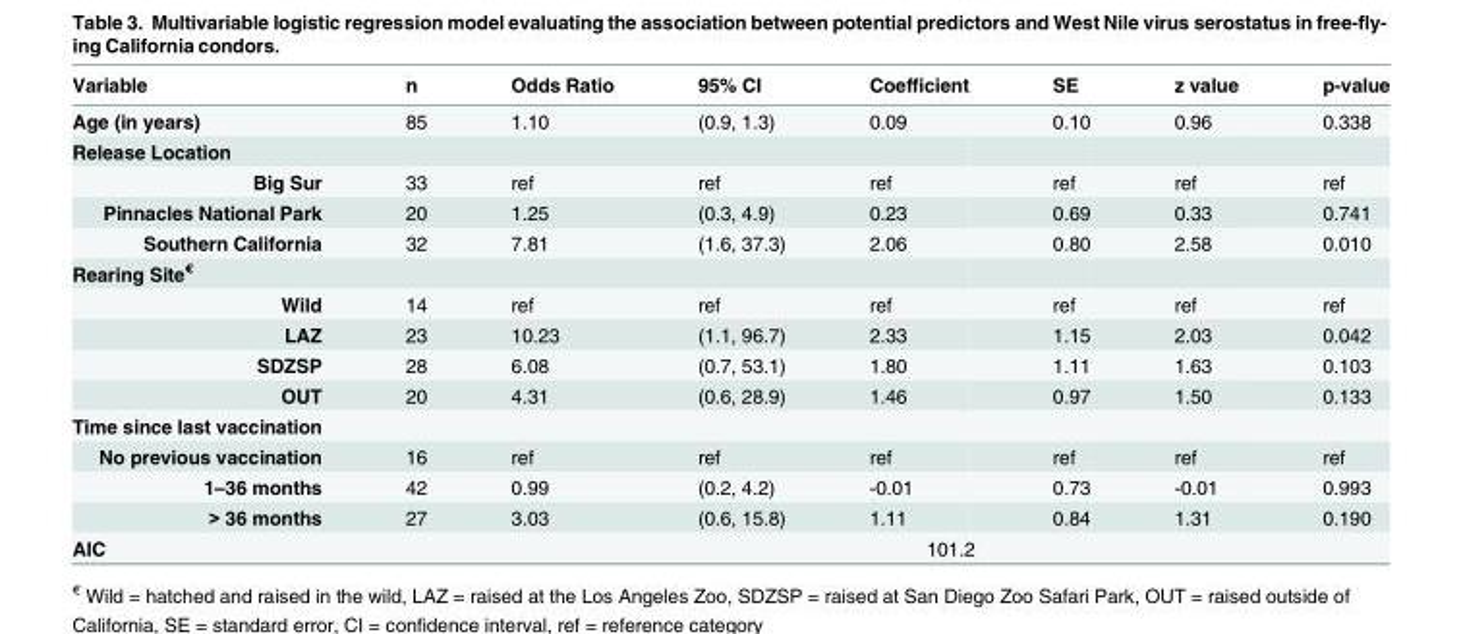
<table><thead><tr><td>Variable</td><td>n</td><td>Odds Ratio</td><td>95% CI</td><td>Coefficient</td><td>SE</td><td>z value</td><td>p-value</td></tr></thead><tbody><tr><td>Age (in years)</td><td>85</td><td>1.10</td><td>(0.9, 1.3)</td><td>0.09</td><td>0.10</td><td>0.96</td><td>0.338</td></tr><tr><td colspan="8">Release Location</td></tr><tr><td>Big Sur</td><td>33</td><td>ref</td><td>ref</td><td>ref</td><td>ref</td><td>ref</td><td>ref</td></tr><tr><td>Pinnacles National Park</td><td>20</td><td>1.25</td><td>(0.3, 4.9)</td><td>0.23</td><td>0.69</td><td>0.33</td><td>0.741</td></tr><tr><td>Southern California</td><td>32</td><td>7.81</td><td>(1.6, 37.3)</td><td>2.06</td><td>0.80</td><td>2.58</td><td>0.010</td></tr><tr><td colspan="8">Rearing Site<sup>€</sup></td></tr><tr><td>Wild</td><td>14</td><td>ref</td><td>ref</td><td>ref</td><td>ref</td><td>ref</td><td>ref</td></tr><tr><td>LAZ</td><td>23</td><td>10.23</td><td>(1.1, 96.7)</td><td>2.33</td><td>1.15</td><td>2.03</td><td>0.042</td></tr><tr><td>SDZSP</td><td>28</td><td>6.08</td><td>(0.7, 53.1)</td><td>1.80</td><td>1.11</td><td>1.63</td><td>0.103</td></tr><tr><td>OUT</td><td>20</td><td>4.31</td><td>(0.6, 28.9)</td><td>1.46</td><td>0.97</td><td>1.50</td><td>0.133</td></tr><tr><td colspan="8">Time since last vaccination</td></tr><tr><td>No previous vaccination</td><td>16</td><td>ref</td><td>ref</td><td>ref</td><td>ref</td><td>ref</td><td>ref</td></tr><tr><td>1–36 months</td><td>42</td><td>0.99</td><td>(0.2, 4.2)</td><td>-0.01</td><td>0.73</td><td>-0.01</td><td>0.993</td></tr><tr><td>&gt; 36 months</td><td>27</td><td>3.03</td><td>(0.6, 15.8)</td><td>1.11</td><td>0.84</td><td>1.31</td><td>0.190</td></tr><tr><td>AIC</td><td></td><td colspan="6">101.2</td></tr></tbody></table>